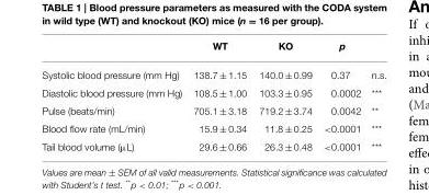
<table><thead><tr><td></td><td>WT</td><td>KO</td><td>p</td><td></td></tr></thead><tbody><tr><td>Systolic blood pressure (mm Hg)</td><td>138.7 ± 1.15</td><td>140.0 ± 0.99</td><td>0.37</td><td>n.s.</td></tr><tr><td>Diastolic blood pressure (mm Hg)</td><td>108.5 ± 1.00</td><td>103.3 ± 0.95</td><td>0.0002</td><td>***</td></tr><tr><td>Pulse (beats/min)</td><td>705.1 ± 3.18</td><td>719.2 ± 3.74</td><td>0.0042</td><td>**</td></tr><tr><td>Blood flow rate (mL/min)</td><td>15.9 ± 0.34</td><td>11.8 ± 0.25</td><td>&lt;0.0001</td><td>***</td></tr><tr><td>Tail blood volume (µL)</td><td>29.6 ± 0.66</td><td>26.3 ± 0.48</td><td>&lt;0.0001</td><td>***</td></tr></tbody></table>